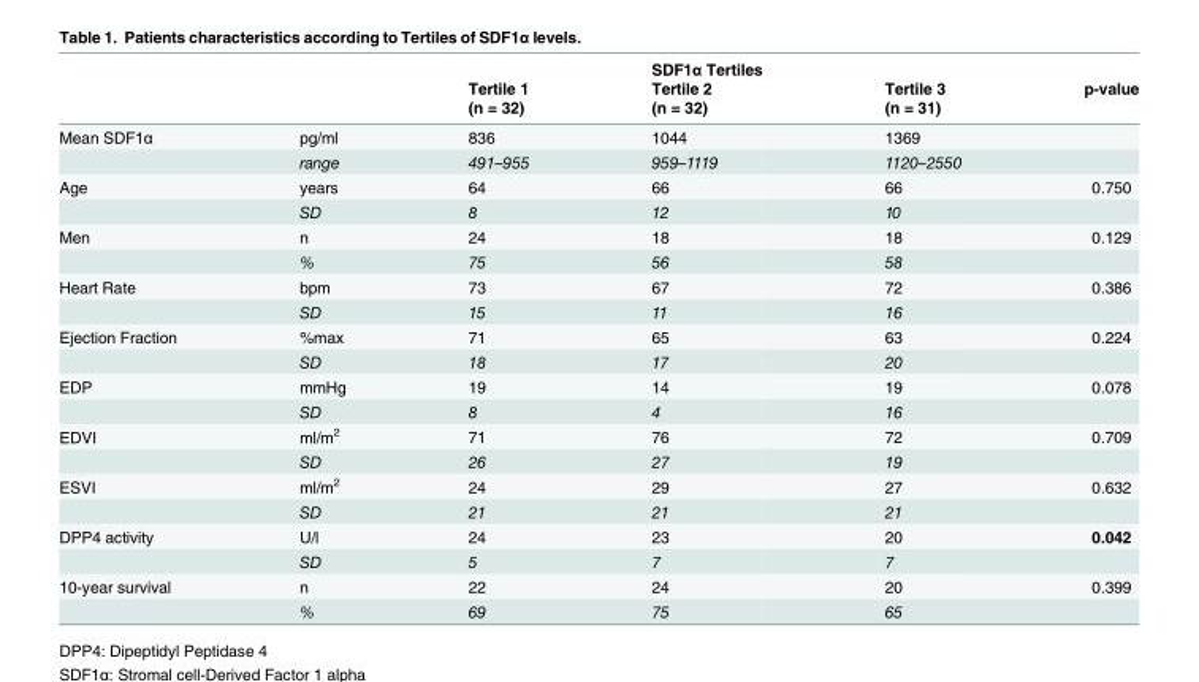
<table><thead><tr><td rowspan="3"></td><td rowspan="3"></td><td rowspan="3">Tertile 1 (n = 32)</td><td rowspan="3">SDF1α Tertiles Tertile 2 (n = 32)</td><td rowspan="3">Tertile 3 (n = 31)</td><td rowspan="3">p-value</td></tr><tr></tr><tr></tr></thead><tbody><tr><td rowspan="2">Mean SDF1α</td><td>pg/ml</td><td>836</td><td>1044</td><td>1369</td><td></td></tr><tr><td>range</td><td>491–955</td><td>959–1119</td><td>1120–2550</td><td></td></tr><tr><td rowspan="2">Age</td><td>years</td><td>64</td><td>66</td><td>66</td><td>0.750</td></tr><tr><td>SD</td><td>8</td><td>12</td><td>10</td><td></td></tr><tr><td rowspan="2">Men</td><td>n</td><td>24</td><td>18</td><td>18</td><td>0.129</td></tr><tr><td>%</td><td>75</td><td>56</td><td>58</td><td></td></tr><tr><td rowspan="2">Heart Rate</td><td>bpm</td><td>73</td><td>67</td><td>72</td><td>0.386</td></tr><tr><td>SD</td><td>15</td><td>11</td><td>16</td><td></td></tr><tr><td rowspan="2">Ejection Fraction</td><td>%max</td><td>71</td><td>65</td><td>63</td><td>0.224</td></tr><tr><td>SD</td><td>18</td><td>17</td><td>20</td><td></td></tr><tr><td rowspan="2">EDP</td><td>mmHg</td><td>19</td><td>14</td><td>19</td><td>0.078</td></tr><tr><td>SD</td><td>8</td><td>4</td><td>16</td><td></td></tr><tr><td rowspan="2">EDVI</td><td>ml/m<sup>2</sup></td><td>71</td><td>76</td><td>72</td><td>0.709</td></tr><tr><td>SD</td><td>26</td><td>27</td><td>19</td><td></td></tr><tr><td rowspan="2">ESVI</td><td>ml/m<sup>2</sup></td><td>24</td><td>29</td><td>27</td><td>0.632</td></tr><tr><td>SD</td><td>21</td><td>21</td><td>21</td><td></td></tr><tr><td rowspan="2">DPP4 activity</td><td>U/l</td><td>24</td><td>23</td><td>20</td><td>0.042</td></tr><tr><td>SD</td><td>5</td><td>7</td><td>7</td><td></td></tr><tr><td rowspan="2">10-year survival</td><td>n</td><td>22</td><td>24</td><td>20</td><td>0.399</td></tr><tr><td>%</td><td>69</td><td>75</td><td>65</td><td></td></tr></tbody></table>